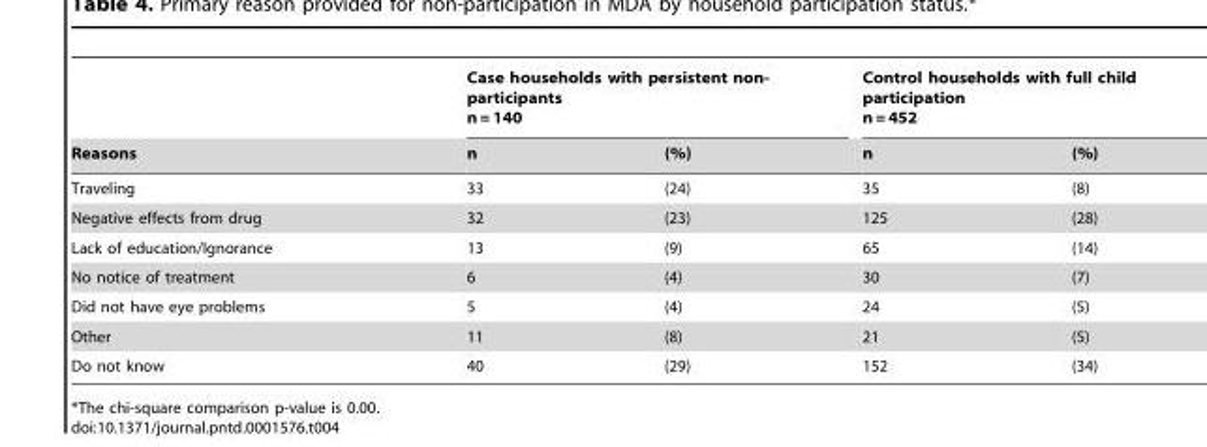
<table><thead><tr><td rowspan="2">Reasons</td><td colspan="2">Case households with persistent non- participants n = 140</td><td colspan="2">Control households with full child participation n = 452</td></tr><tr><td>n</td><td>(%)</td><td>n</td><td>(%)</td></tr></thead><tbody><tr><td>Traveling</td><td>33</td><td>(24)</td><td>35</td><td>(8)</td></tr><tr><td>Negative effects from drug</td><td>32</td><td>(23)</td><td>125</td><td>(28)</td></tr><tr><td>Lack of education/Ignorance</td><td>13</td><td>(9)</td><td>65</td><td>(14)</td></tr><tr><td>No notice of treatment</td><td>6</td><td>(4)</td><td>30</td><td>(7)</td></tr><tr><td>Did not have eye problems</td><td>5</td><td>(4)</td><td>24</td><td>(5)</td></tr><tr><td>Other</td><td>11</td><td>(8)</td><td>21</td><td>(5)</td></tr><tr><td>Do not know</td><td>40</td><td>(29)</td><td>152</td><td>(34)</td></tr></tbody></table>